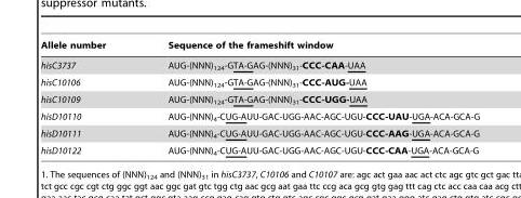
<table><thead><tr><td>Allele number</td><td>Sequence of the frameshift window</td></tr></thead><tbody><tr><td>hisC3737</td><td>AUG-(NNN)<sub>124</sub>-GTA-GAG-(NNN)<sub>31</sub>-CCC-CAA-UAA</td></tr><tr><td>hisC10106</td><td>AUG-(NNN)<sub>124</sub>-GTA-GAG-(NNN)<sub>31</sub>-CCC-AUG-UAA</td></tr><tr><td>hisC10109</td><td>AUG-(NNN)<sub>124</sub>-GTA-GAG-(NNN)<sub>31</sub>-CCC-UGG-UAA</td></tr><tr><td>hisD10110</td><td>AUG-(NNN)<sub>4</sub>-CUG-AUU-GAC-UGG-AAC-AGC-UGU-CCC-UAU-UGA-ACA-GCA-G</td></tr><tr><td>hisD10111</td><td>AUG-(NNN)<sub>4</sub>-CUG-AUU-GAC-UGG-AAC-AGC-UGU-CCC-AAG-UGA-ACA-GCA-G</td></tr><tr><td>hisD10122</td><td>AUG-(NNN)<sub>4</sub>-CUG-AUU-GAC-UGG-AAC-AGC-UGU-CCC-CAA-UGA-ACA-GCA-G</td></tr></tbody></table>